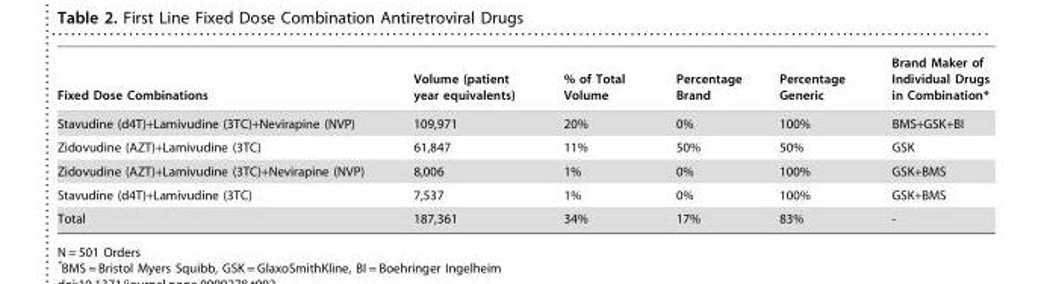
<table><thead><tr><td>Fixed Dose Combinations</td><td>Volume (patient year equivalents)</td><td>% of Total Volume</td><td>Percentage Brand</td><td>Percentage Generic</td><td>Brand Maker of Individual Drugs in Combination*</td></tr></thead><tbody><tr><td>Stavudine (d4T)+Lamivudine (3TC)+Nevirapine (NVP)</td><td>109,971</td><td>20%</td><td>0%</td><td>100%</td><td>BMS+GSK+BI</td></tr><tr><td>Zidovudine (AZT)+Lamivudine (3TC)</td><td>61,847</td><td>11%</td><td>50%</td><td>50%</td><td>GSK</td></tr><tr><td>Zidovudine (AZT)+Lamivudine (3TC)+Nevirapine (NVP)</td><td>8,006</td><td>1%</td><td>0%</td><td>100%</td><td>GSK+BMS</td></tr><tr><td>Stavudine (d4T)+Lamivudine (3TC)</td><td>7,537</td><td>1%</td><td>0%</td><td>100%</td><td>GSK+BMS</td></tr><tr><td>Total</td><td>187,361</td><td>34%</td><td>17%</td><td>83%</td><td>-</td></tr></tbody></table>